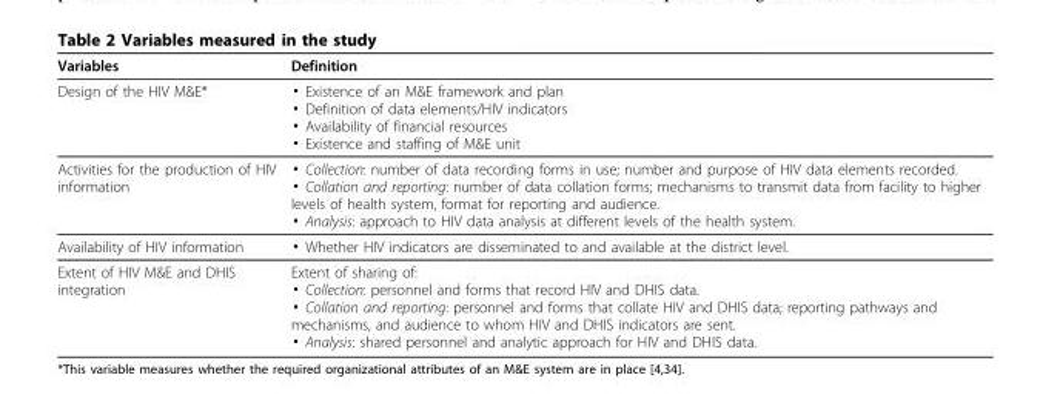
<table><thead><tr><td>Variables</td><td>Definition</td></tr></thead><tbody><tr><td>Design of the HIV M&amp;E*</td><td>▪ Existence of an M&amp;E framework and plan ▪ Definition of data elements/HIV indicators ▪ Availability of financial resources ▪ Existence and staffing of M&amp;E unit</td></tr><tr><td>Activities for the production of HIV information</td><td>▪ Collection: number of data recording forms in use; number and purpose of HIV data elements recorded. ▪ Collation and reporting: number of data collation forms; mechanisms to transmit data from facility to higher levels of health system, format for reporting and audience. ▪ Analysis: approach to HIV data analysis at different levels of the health system.</td></tr><tr><td>Availability of HIV information</td><td>▪ Whether HIV indicators are disseminated to and available at the district level.</td></tr><tr><td>Extent of HIV M&amp;E and DHIS integration</td><td>Extent of sharing of: ▪ Collection: personnel and forms that record HIV and DHIS data. ▪ Collation and reporting: personnel and forms that collate HIV and DHIS data; reporting pathways and mechanisms, and audience to whom HIV and DHIS indicators are sent. ▪ Analysis: shared personnel and analytic approach for HIV and DHIS data.</td></tr></tbody></table>